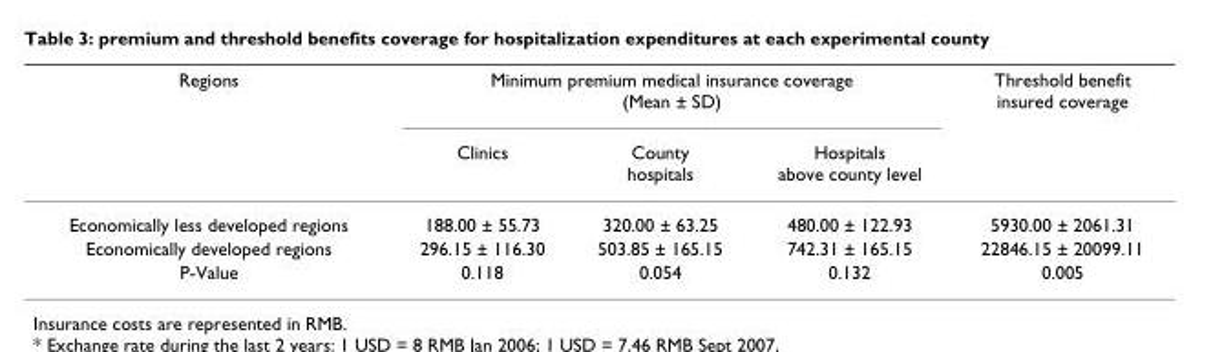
<table><thead><tr><td rowspan="2">Regions</td><td colspan="3">Minimum premium medical insurance coverage (Mean ± SD)</td><td rowspan="2">Threshold benefit insured coverage</td></tr><tr><td>Clinics</td><td>County hospitals</td><td>Hospitals above county level</td></tr></thead><tbody><tr><td>Economically less developed regions</td><td>188.00 ± 55.73</td><td>320.00 ± 63.25</td><td>480.00 ± 122.93</td><td>5930.00 ± 2061.31</td></tr><tr><td>Economically developed regions</td><td>296.15 ± 116.30</td><td>503.85 ± 165.15</td><td>742.31 ± 165.15</td><td>22846.15 ± 20099.11</td></tr><tr><td>P-Value</td><td>0.118</td><td>0.054</td><td>0.132</td><td>0.005</td></tr></tbody></table>